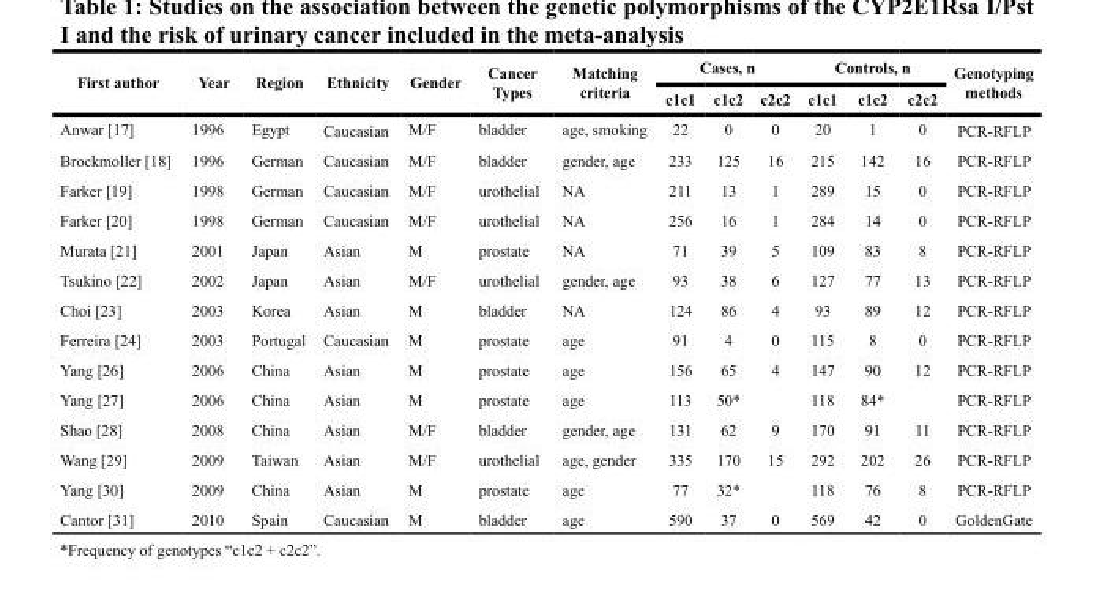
<table><thead><tr><td rowspan="2">First author</td><td rowspan="2">Year</td><td rowspan="2">Region</td><td rowspan="2">Ethnicity</td><td rowspan="2">Gender</td><td rowspan="2">Cancer Types</td><td rowspan="2">Matching criteria</td><td colspan="3">Cases, n</td><td colspan="3">Controls, n</td><td rowspan="2">Genotyping methods</td></tr><tr><td>c1c1</td><td>c1c2</td><td>c2c2</td><td>c1c1</td><td>c1c2</td><td>c2c2</td></tr></thead><tbody><tr><td>Anwar [17]</td><td>1996</td><td>Egypt</td><td>Caucasian</td><td>M/F</td><td>bladder</td><td>age, smoking</td><td>22</td><td>0</td><td>0</td><td>20</td><td>1</td><td>0</td><td>PCR-RFLP</td></tr><tr><td>Brockmoller [18]</td><td>1996</td><td>German</td><td>Caucasian</td><td>M/F</td><td>bladder</td><td>gender, age</td><td>233</td><td>125</td><td>16</td><td>215</td><td>142</td><td>16</td><td>PCR-RFLP</td></tr><tr><td>Farker [19]</td><td>1998</td><td>German</td><td>Caucasian</td><td>M/F</td><td>urothelial</td><td>NA</td><td>211</td><td>13</td><td>1</td><td>289</td><td>15</td><td>0</td><td>PCR-RFLP</td></tr><tr><td>Farker [20]</td><td>1998</td><td>German</td><td>Caucasian</td><td>M/F</td><td>urothelial</td><td>NA</td><td>256</td><td>16</td><td>1</td><td>284</td><td>14</td><td>0</td><td>PCR-RFLP</td></tr><tr><td>Murata [21]</td><td>2001</td><td>Japan</td><td>Asian</td><td>M</td><td>prostate</td><td>NA</td><td>71</td><td>39</td><td>5</td><td>109</td><td>83</td><td>8</td><td>PCR-RFLP</td></tr><tr><td>Tsukino [22]</td><td>2002</td><td>Japan</td><td>Asian</td><td>M/F</td><td>urothelial</td><td>gender, age</td><td>93</td><td>38</td><td>6</td><td>127</td><td>77</td><td>13</td><td>PCR-RFLP</td></tr><tr><td>Choi [23]</td><td>2003</td><td>Korea</td><td>Asian</td><td>M</td><td>bladder</td><td>NA</td><td>124</td><td>86</td><td>4</td><td>93</td><td>89</td><td>12</td><td>PCR-RFLP</td></tr><tr><td>Ferreira [24]</td><td>2003</td><td>Portugal</td><td>Caucasian</td><td>M</td><td>prostate</td><td>age</td><td>91</td><td>4</td><td>0</td><td>115</td><td>8</td><td>0</td><td>PCR-RFLP</td></tr><tr><td>Yang [26]</td><td>2006</td><td>China</td><td>Asian</td><td>M</td><td>prostate</td><td>age</td><td>156</td><td>65</td><td>4</td><td>147</td><td>90</td><td>12</td><td>PCR-RFLP</td></tr><tr><td>Yang [27]</td><td>2006</td><td>China</td><td>Asian</td><td>M</td><td>prostate</td><td>age</td><td>113</td><td>50*</td><td></td><td>118</td><td>84*</td><td></td><td>PCR-RFLP</td></tr><tr><td>Shao [28]</td><td>2008</td><td>China</td><td>Asian</td><td>M/F</td><td>bladder</td><td>gender, age</td><td>131</td><td>62</td><td>9</td><td>170</td><td>91</td><td>11</td><td>PCR-RFLP</td></tr><tr><td>Wang [29]</td><td>2009</td><td>Taiwan</td><td>Asian</td><td>M/F</td><td>urothelial</td><td>age, gender</td><td>335</td><td>170</td><td>15</td><td>292</td><td>202</td><td>26</td><td>PCR-RFLP</td></tr><tr><td>Yang [30]</td><td>2009</td><td>China</td><td>Asian</td><td>M</td><td>prostate</td><td>age</td><td>77</td><td>32*</td><td></td><td>118</td><td>76</td><td>8</td><td>PCR-RFLP</td></tr><tr><td>Cantor [31]</td><td>2010</td><td>Spain</td><td>Caucasian</td><td>M</td><td>bladder</td><td>age</td><td>590</td><td>37</td><td>0</td><td>569</td><td>42</td><td>0</td><td>GoldenGate</td></tr></tbody></table>